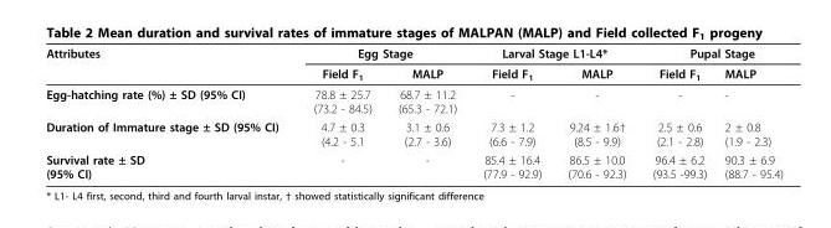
<table><thead><tr><td rowspan="2">Attributes</td><td colspan="2">Egg Stage</td><td colspan="2">Larval Stage L1-L4*</td><td colspan="2">Pupal Stage</td></tr><tr><td>Field F<sub>1</sub></td><td>MALP</td><td>Field F<sub>1</sub></td><td>MALP</td><td>Field F<sub>1</sub></td><td>MALP</td></tr></thead><tbody><tr><td>Egg-hatching rate (%) ± SD (95% CI)</td><td>78.8 ± 25.7 (73.2 - 84.5)</td><td>68.7 ± 11.2 (65.3 - 72.1)</td><td>-</td><td>-</td><td>-</td><td>-</td></tr><tr><td>Duration of Immature stage ± SD (95% CI)</td><td>4.7 ± 0.3 (4.2 - 5.1</td><td>3.1 ± 0.6 (2.7 - 3.6)</td><td>7.3 ± 1.2 (6.6 - 7.9)</td><td>9.24 ± 1.6† (8.5 - 9.9)</td><td>2.5 ± 0.6 (2.1 - 2.8)</td><td>2 ± 0.8 (1.9 - 2.3)</td></tr><tr><td>Survival rate ± SD (95% CI)</td><td>-</td><td>-</td><td>85.4 ± 16.4 (77.9 - 92.9)</td><td>86.5 ± 10.0 (70.6 - 92.3)</td><td>96.4 ± 6.2 (93.5 -99.3)</td><td>90.3 ± 6.9 (88.7 - 95.4)</td></tr></tbody></table>